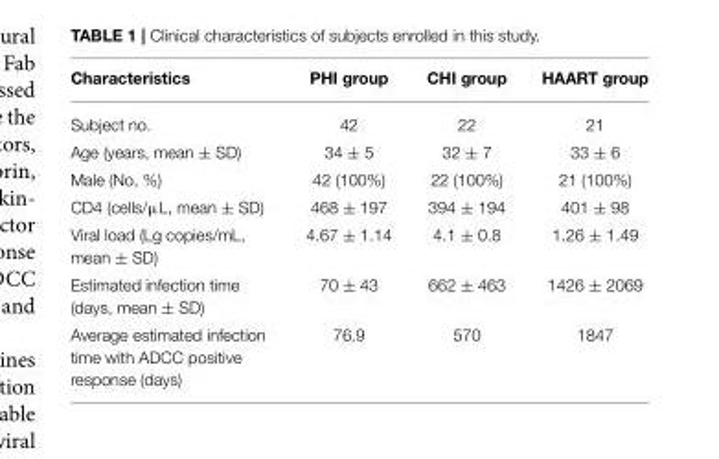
<table><thead><tr><td>Characteristics</td><td>PHI group</td><td>CHI group</td><td>HAART group</td></tr></thead><tbody><tr><td>Subject no.</td><td>42</td><td>22</td><td>21</td></tr><tr><td>Age (years, mean ± SD)</td><td>34 ± 5</td><td>32 ± 7</td><td>33 ± 6</td></tr><tr><td>Male (No, %)</td><td>42 (100%)</td><td>22 (100%)</td><td>21 (100%)</td></tr><tr><td>CD4 (cells/µL, mean ± SD)</td><td>468 ± 197</td><td>394 ± 194</td><td>401 ± 98</td></tr><tr><td>Viral load (Lg copies/mL, mean ± SD)</td><td>4.67 ± 1.14</td><td>4.1 ± 0.8</td><td>1.26 ± 1.49</td></tr><tr><td>Estimated infection time (days, mean ± SD)</td><td>70 ± 43</td><td>662 ± 463</td><td>1426 ± 2069</td></tr><tr><td>Average estimated infection time with ADCC positive response (days)</td><td>76.9</td><td>570</td><td>1847</td></tr></tbody></table>